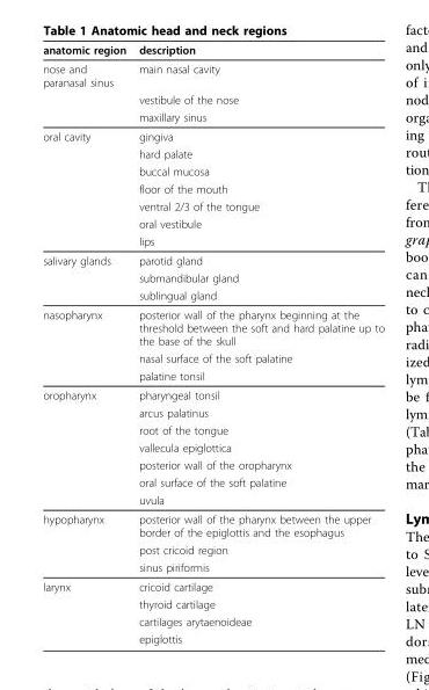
<table><thead><tr><td>anatomic region</td><td>description</td></tr></thead><tbody><tr><td rowspan="3">nose and paranasal sinus</td><td>main nasal cavity</td></tr><tr><td>vestibule of the nose</td></tr><tr><td>maxillary sinus</td></tr><tr><td rowspan="7">oral cavity</td><td>gingiva</td></tr><tr><td>hard palate</td></tr><tr><td>buccal mucosa</td></tr><tr><td>floor of the mouth</td></tr><tr><td>ventral 2/3 of the tongue</td></tr><tr><td>oral vestibule</td></tr><tr><td>lips</td></tr><tr><td rowspan="3">salivary glands</td><td>parotid gland</td></tr><tr><td>submandibular gland</td></tr><tr><td>sublingual gland</td></tr><tr><td rowspan="3">nasopharynx</td><td>posterior wall of the pharynx beginning at the threshold between the soft and hard palatine up to the base of the skull</td></tr><tr><td>nasal surface of the soft palatine</td></tr><tr><td>palatine tonsil</td></tr><tr><td rowspan="7">oropharynx</td><td>pharyngeal tonsil</td></tr><tr><td>arcus palatinus</td></tr><tr><td>root of the tongue</td></tr><tr><td>vallecula epiglottica</td></tr><tr><td>posterior wall of the oropharynx</td></tr><tr><td>oral surface of the soft palatine</td></tr><tr><td>uvula</td></tr><tr><td rowspan="3">hypopharynx</td><td>posterior wall of the pharynx between the upper border of the epiglottis and the esophagus</td></tr><tr><td>post cricoid region</td></tr><tr><td>sinus piriformis</td></tr><tr><td rowspan="4">larynx</td><td>cricoid cartilage</td></tr><tr><td>thyroid cartilage</td></tr><tr><td>cartilages arytaenoideae</td></tr><tr><td>epiglottis</td></tr></tbody></table>